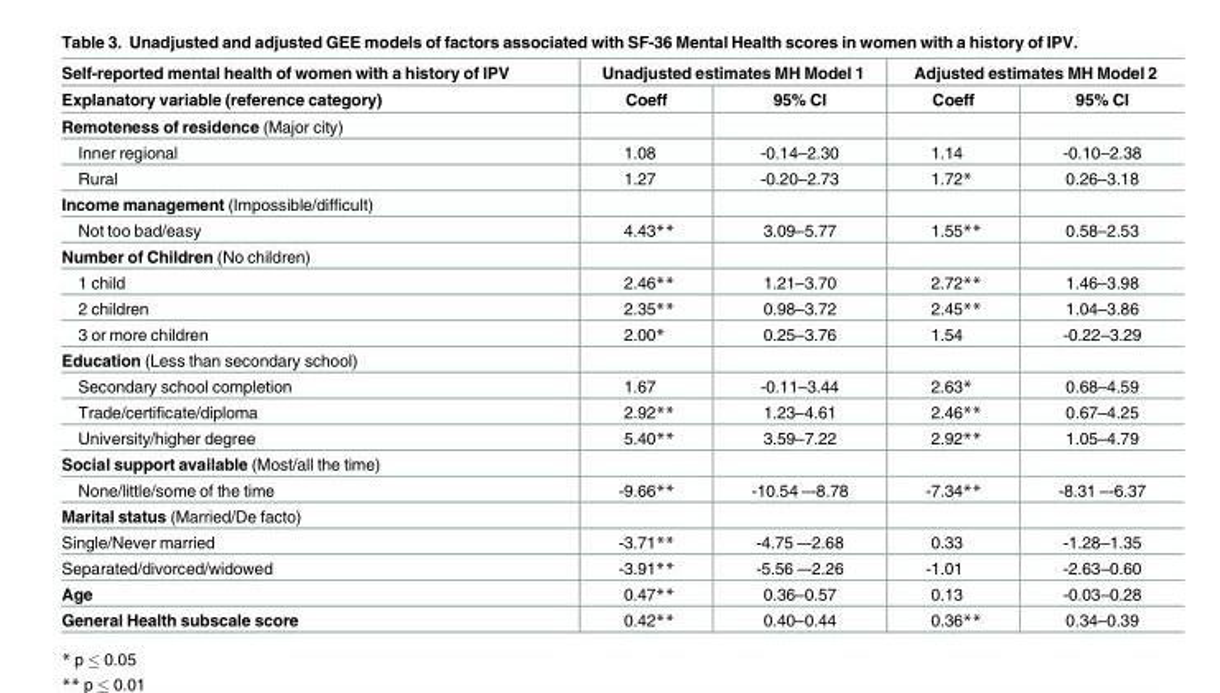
<table><thead><tr><td rowspan="2">Self-reported mental health of women with a history of IPV Explanatory variable (reference category)</td><td colspan="2">Unadjusted estimates MH Model 1</td><td colspan="2">Adjusted estimates MH Model 2</td></tr><tr><td>Coeff</td><td>95% CI</td><td>Coeff</td><td>95% CI</td></tr></thead><tbody><tr><td colspan="5">Remoteness of residence (Major city)</td></tr><tr><td>Inner regional</td><td>1.08</td><td>-0.14–2.30</td><td>1.14</td><td>-0.10–2.38</td></tr><tr><td>Rural</td><td>1.27</td><td>-0.20–2.73</td><td>1.72*</td><td>0.26–3.18</td></tr><tr><td colspan="5">Income management (Impossible/difficult)</td></tr><tr><td>Not too bad/easy</td><td>4.43**</td><td>3.09–5.77</td><td>1.55**</td><td>0.58–2.53</td></tr><tr><td colspan="5">Number of Children (No children)</td></tr><tr><td>1 child</td><td>2.46**</td><td>1.21–3.70</td><td>2.72**</td><td>1.46–3.98</td></tr><tr><td>2 children</td><td>2.35**</td><td>0.98–3.72</td><td>2.45**</td><td>1.04–3.86</td></tr><tr><td>3 or more children</td><td>2.00*</td><td>0.25–3.76</td><td>1.54</td><td>-0.22–3.29</td></tr><tr><td colspan="5">Education (Less than secondary school)</td></tr><tr><td>Secondary school completion</td><td>1.67</td><td>-0.11–3.44</td><td>2.63*</td><td>0.68–4.59</td></tr><tr><td>Trade/certificate/diploma</td><td>2.92**</td><td>1.23–4.61</td><td>2.46**</td><td>0.67–4.25</td></tr><tr><td>University/higher degree</td><td>5.40**</td><td>3.59–7.22</td><td>2.92**</td><td>1.05–4.79</td></tr><tr><td colspan="5">Social support available (Most/all the time)</td></tr><tr><td>None/little/some of the time</td><td>-9.66**</td><td>-10.54 –-8.78</td><td>-7.34**</td><td>-8.31 –-6.37</td></tr><tr><td colspan="5">Marital status (Married/De facto)</td></tr><tr><td>Single/Never married</td><td>-3.71**</td><td>-4.75 –-2.68</td><td>0.33</td><td>-1.28–1.35</td></tr><tr><td>Separated/divorced/widowed</td><td>-3.91**</td><td>-5.56 –-2.26</td><td>-1.01</td><td>-2.63–0.60</td></tr><tr><td>Age</td><td>0.47**</td><td>0.36–0.57</td><td>0.13</td><td>-0.03–0.28</td></tr><tr><td>General Health subscale score</td><td>0.42**</td><td>0.40–0.44</td><td>0.36**</td><td>0.34–0.39</td></tr></tbody></table>